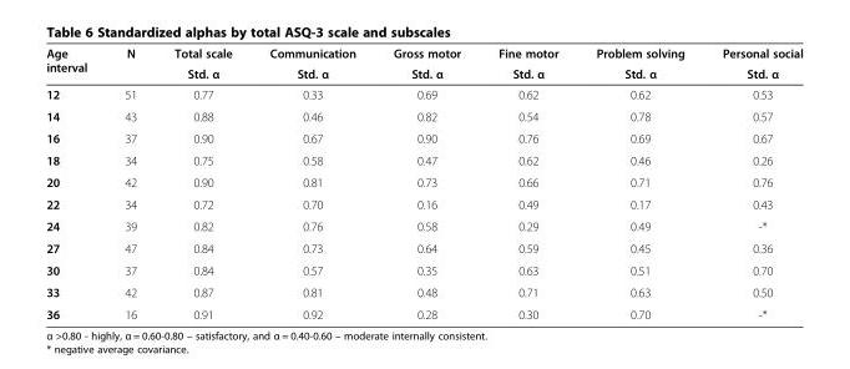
<table><thead><tr><td rowspan="2">Age interval</td><td rowspan="2">N</td><td rowspan="2">Total scale Std. α</td><td rowspan="2">Communication Std. α</td><td rowspan="2">Gross motor Std. α</td><td rowspan="2">Fine motor Std. α</td><td rowspan="2">Problem solving Std. α</td><td rowspan="2">Personal social Std. α</td></tr><tr></tr></thead><tbody><tr><td>12</td><td>51</td><td>0.77</td><td>0.33</td><td>0.69</td><td>0.62</td><td>0.62</td><td>0.53</td></tr><tr><td>14</td><td>43</td><td>0.88</td><td>0.46</td><td>0.82</td><td>0.54</td><td>0.78</td><td>0.57</td></tr><tr><td>16</td><td>37</td><td>0.90</td><td>0.67</td><td>0.90</td><td>0.76</td><td>0.69</td><td>0.67</td></tr><tr><td>18</td><td>34</td><td>0.75</td><td>0.58</td><td>0.47</td><td>0.62</td><td>0.46</td><td>0.26</td></tr><tr><td>20</td><td>42</td><td>0.90</td><td>0.81</td><td>0.73</td><td>0.66</td><td>0.71</td><td>0.76</td></tr><tr><td>22</td><td>34</td><td>0.72</td><td>0.70</td><td>0.16</td><td>0.49</td><td>0.17</td><td>0.43</td></tr><tr><td>24</td><td>39</td><td>0.82</td><td>0.76</td><td>0.58</td><td>0.29</td><td>0.49</td><td>-*</td></tr><tr><td>27</td><td>47</td><td>0.84</td><td>0.73</td><td>0.64</td><td>0.59</td><td>0.45</td><td>0.36</td></tr><tr><td>30</td><td>37</td><td>0.84</td><td>0.57</td><td>0.35</td><td>0.63</td><td>0.51</td><td>0.70</td></tr><tr><td>33</td><td>42</td><td>0.87</td><td>0.81</td><td>0.48</td><td>0.71</td><td>0.63</td><td>0.50</td></tr><tr><td>36</td><td>16</td><td>0.91</td><td>0.92</td><td>0.28</td><td>0.30</td><td>0.70</td><td>-*</td></tr></tbody></table>